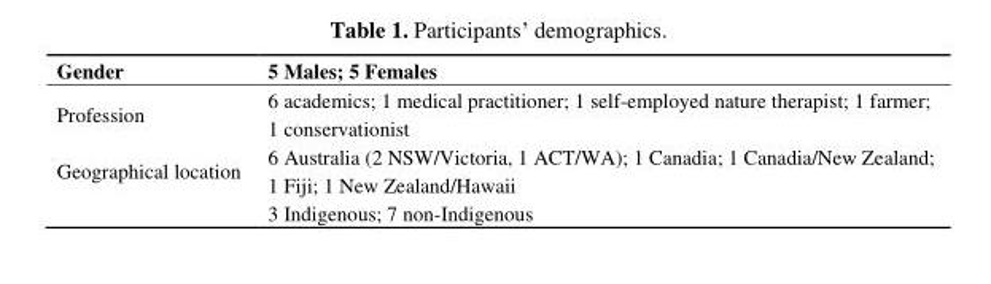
<table><thead><tr><td>Gender</td><td>5 Males; 5 Females</td></tr></thead><tbody><tr><td>Profession</td><td>6 academics; 1 medical practitioner; 1 self-employed nature therapist; 1 farmer; 1 conservationist</td></tr><tr><td rowspan="2">Geographical location</td><td>6 Australia (2 NSW/Victoria, 1 ACT/WA); 1 Canadia; 1 Canadia/New Zealand; 1 Fiji; 1 New Zealand/Hawaii</td></tr><tr><td>3 Indigenous; 7 non-Indigenous</td></tr></tbody></table>